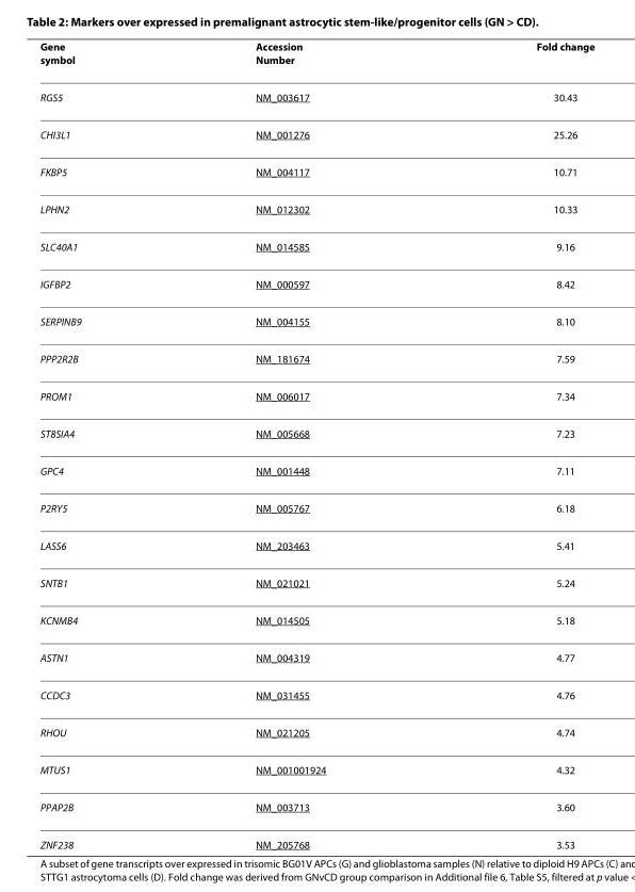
<table><thead><tr><td>Gene symbol</td><td>Accession Number</td><td>Fold change</td></tr></thead><tbody><tr><td>RGS5</td><td>NM_003617</td><td>30.43</td></tr><tr><td>CHI3L1</td><td>NM_001276</td><td>25.26</td></tr><tr><td>FKBP5</td><td>NM_004117</td><td>10.71</td></tr><tr><td>LPHN2</td><td>NM_012302</td><td>10.33</td></tr><tr><td>SLC40A1</td><td>NM_014585</td><td>9.16</td></tr><tr><td>IGFBP2</td><td>NM_000597</td><td>8.42</td></tr><tr><td>SERPINB9</td><td>NM_004155</td><td>8.10</td></tr><tr><td>PPP2R2B</td><td>NM_181674</td><td>7.59</td></tr><tr><td>PROM1</td><td>NM_006017</td><td>7.34</td></tr><tr><td>ST8SIA4</td><td>NM_005668</td><td>7.23</td></tr><tr><td>GPC4</td><td>NM_001448</td><td>7.11</td></tr><tr><td>P2RY5</td><td>NM_005767</td><td>6.18</td></tr><tr><td>LASS6</td><td>NM_203463</td><td>5.41</td></tr><tr><td>SNTB1</td><td>NM_021021</td><td>5.24</td></tr><tr><td>KCNMB4</td><td>NM_014505</td><td>5.18</td></tr><tr><td>ASTN1</td><td>NM_004319</td><td>4.77</td></tr><tr><td>CCDC3</td><td>NM_031455</td><td>4.76</td></tr><tr><td>RHOU</td><td>NM_021205</td><td>4.74</td></tr><tr><td>MTUS1</td><td>NM_001001924</td><td>4.32</td></tr><tr><td>PPAP2B</td><td>NM_003713</td><td>3.60</td></tr><tr><td>ZNF238</td><td>NM_205768</td><td>3.53</td></tr></tbody></table>